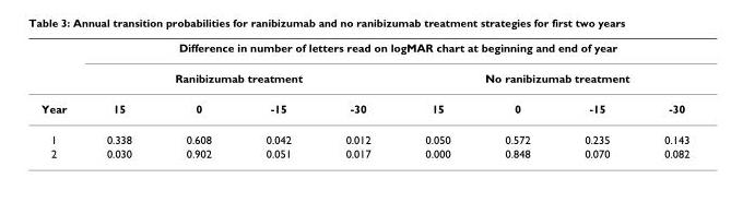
<table><thead><tr><td rowspan="3">Year</td><td colspan="8">Difference in number of letters read on logMAR chart at beginning and end of year</td></tr><tr><td colspan="4">Ranibizumab treatment</td><td colspan="4">No ranibizumab treatment</td></tr><tr><td>15</td><td>0</td><td>-15</td><td>-30</td><td>15</td><td>0</td><td>-15</td><td>-30</td></tr></thead><tbody><tr><td>1</td><td>0.338</td><td>0.608</td><td>0.042</td><td>0.012</td><td>0.050</td><td>0.572</td><td>0.235</td><td>0.143</td></tr><tr><td>2</td><td>0.030</td><td>0.902</td><td>0.051</td><td>0.017</td><td>0.000</td><td>0.848</td><td>0.070</td><td>0.082</td></tr></tbody></table>